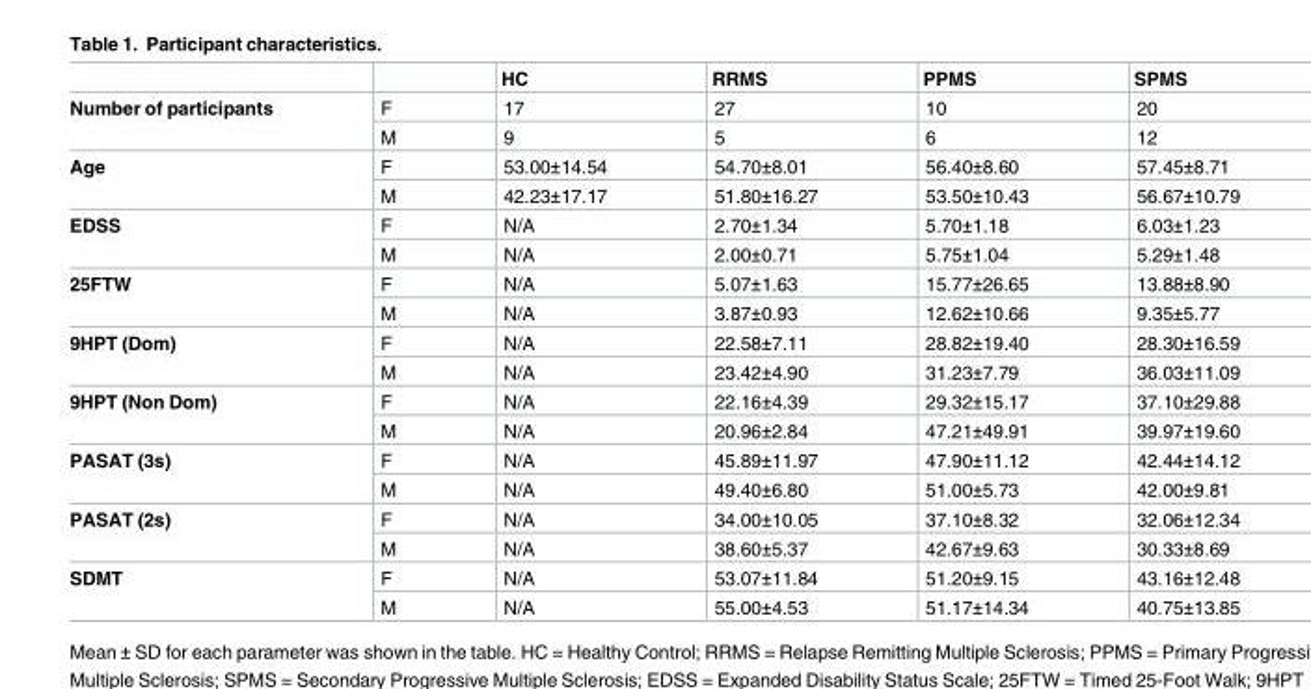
<table><thead><tr><td></td><td></td><td>HC</td><td>RRMS</td><td>PPMS</td><td>SPMS</td></tr></thead><tbody><tr><td rowspan="2">Number of participants</td><td>F</td><td>17</td><td>27</td><td>10</td><td>20</td></tr><tr><td>M</td><td>9</td><td>5</td><td>6</td><td>12</td></tr><tr><td rowspan="2">Age</td><td>F</td><td>53.00±14.54</td><td>54.70±8.01</td><td>56.40±8.60</td><td>57.45±8.71</td></tr><tr><td>M</td><td>42.23±17.17</td><td>51.80±16.27</td><td>53.50±10.43</td><td>56.67±10.79</td></tr><tr><td rowspan="2">EDSS</td><td>F</td><td>N/A</td><td>2.70±1.34</td><td>5.70±1.18</td><td>6.03±1.23</td></tr><tr><td>M</td><td>N/A</td><td>2.00±0.71</td><td>5.75±1.04</td><td>5.29±1.48</td></tr><tr><td rowspan="2">25FTW</td><td>F</td><td>N/A</td><td>5.07±1.63</td><td>15.77±26.65</td><td>13.88±8.90</td></tr><tr><td>M</td><td>N/A</td><td>3.87±0.93</td><td>12.62±10.66</td><td>9.35±5.77</td></tr><tr><td rowspan="2">9HPT (Dom)</td><td>F</td><td>N/A</td><td>22.58±7.11</td><td>28.82±19.40</td><td>28.30±16.59</td></tr><tr><td>M</td><td>N/A</td><td>23.42±4.90</td><td>31.23±7.79</td><td>36.03±11.09</td></tr><tr><td rowspan="2">9HPT (Non Dom)</td><td>F</td><td>N/A</td><td>22.16±4.39</td><td>29.32±15.17</td><td>37.10±29.88</td></tr><tr><td>M</td><td>N/A</td><td>20.96±2.84</td><td>47.21±49.91</td><td>39.97±19.60</td></tr><tr><td rowspan="2">PASAT (3s)</td><td>F</td><td>N/A</td><td>45.89±11.97</td><td>47.90±11.12</td><td>42.44±14.12</td></tr><tr><td>M</td><td>N/A</td><td>49.40±6.80</td><td>51.00±5.73</td><td>42.00±9.81</td></tr><tr><td rowspan="2">PASAT (2s)</td><td>F</td><td>N/A</td><td>34.00±10.05</td><td>37.10±8.32</td><td>32.06±12.34</td></tr><tr><td>M</td><td>N/A</td><td>38.60±5.37</td><td>42.67±9.63</td><td>30.33±8.69</td></tr><tr><td rowspan="2">SDMT</td><td>F</td><td>N/A</td><td>53.07±11.84</td><td>51.20±9.15</td><td>43.16±12.48</td></tr><tr><td>M</td><td>N/A</td><td>55.00±4.53</td><td>51.17±14.34</td><td>40.75±13.85</td></tr></tbody></table>